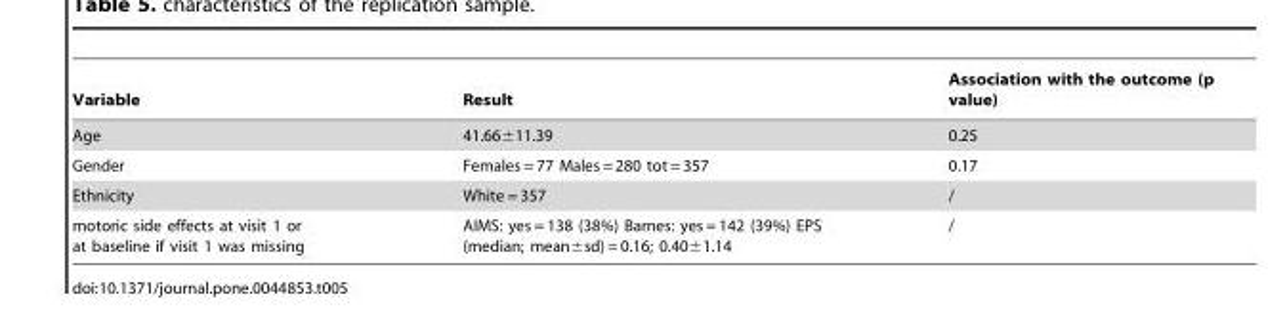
<table><thead><tr><td>Variable</td><td>Result</td><td>Association with the outcome (p value)</td></tr></thead><tbody><tr><td>Age</td><td>41.66±11.39</td><td>0.25</td></tr><tr><td>Gender</td><td>Females = 77 Males = 280 tot = 357</td><td>0.17</td></tr><tr><td>Ethnicity</td><td>White = 357</td><td>/</td></tr><tr><td>motoric side effects at visit 1 or at baseline if visit 1 was missing</td><td>AIMS: yes = 138 (38%) Barnes: yes = 142 (39%) EPS (median; mean±sd) = 0.16; 0.40±1.14</td><td>/</td></tr></tbody></table>